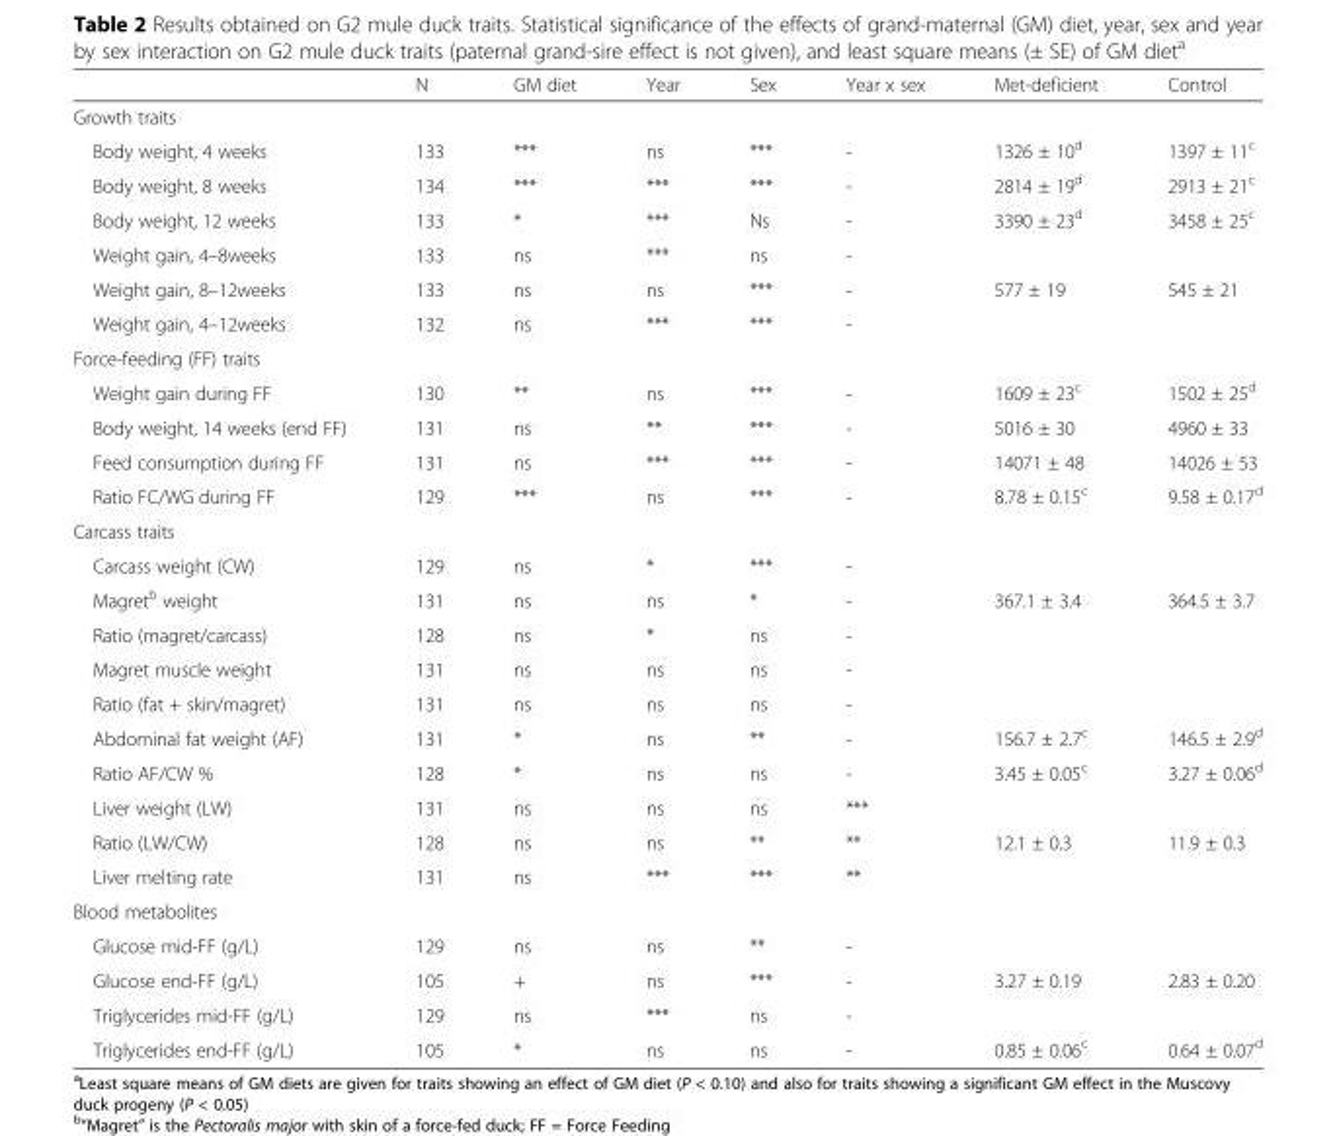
<table><thead><tr><td></td><td>N</td><td>GM diet</td><td>Year</td><td>Sex</td><td>Year x sex</td><td>Met-deficient</td><td>Control</td></tr></thead><tbody><tr><td colspan="8">Growth traits</td></tr><tr><td>Body weight, 4 weeks</td><td>133</td><td>***</td><td>ns</td><td>***</td><td>-</td><td>1326 ± 10<sup>d</sup></td><td>1397 ± 11<sup>c</sup></td></tr><tr><td>Body weight, 8 weeks</td><td>134</td><td>***</td><td>***</td><td>***</td><td>-</td><td>2814 ± 19<sup>d</sup></td><td>2913 ± 21<sup>c</sup></td></tr><tr><td>Body weight, 12 weeks</td><td>133</td><td>*</td><td>***</td><td>Ns</td><td>-</td><td>3390 ± 23<sup>d</sup></td><td>3458 ± 25<sup>c</sup></td></tr><tr><td>Weight gain, 4–8weeks</td><td>133</td><td>ns</td><td>***</td><td>ns</td><td>-</td><td></td><td></td></tr><tr><td>Weight gain, 8–12weeks</td><td>133</td><td>ns</td><td>ns</td><td>***</td><td>-</td><td>577 ± 19</td><td>545 ± 21</td></tr><tr><td>Weight gain, 4–12weeks</td><td>132</td><td>ns</td><td>***</td><td>***</td><td>-</td><td></td><td></td></tr><tr><td colspan="8">Force-feeding (FF) traits</td></tr><tr><td>Weight gain during FF</td><td>130</td><td>**</td><td>ns</td><td>***</td><td>-</td><td>1609 ± 23<sup>c</sup></td><td>1502 ± 25<sup>d</sup></td></tr><tr><td>Body weight, 14 weeks (end FF)</td><td>131</td><td>ns</td><td>**</td><td>***</td><td>-</td><td>5016 ± 30</td><td>4960 ± 33</td></tr><tr><td>Feed consumption during FF</td><td>131</td><td>ns</td><td>***</td><td>***</td><td>-</td><td>14071 ± 48</td><td>14026 ± 53</td></tr><tr><td>Ratio FC/WG during FF</td><td>129</td><td>***</td><td>ns</td><td>***</td><td>-</td><td>8.78 ± 0.15<sup>c</sup></td><td>9.58 ± 0.17<sup>d</sup></td></tr><tr><td colspan="8">Carcass traits</td></tr><tr><td>Carcass weight (CW)</td><td>129</td><td>ns</td><td>*</td><td>***</td><td>-</td><td></td><td></td></tr><tr><td>Magret<sup>b</sup> weight</td><td>131</td><td>ns</td><td>ns</td><td>*</td><td>-</td><td>367.1 ± 3.4</td><td>364.5 ± 3.7</td></tr><tr><td>Ratio (magret/carcass)</td><td>128</td><td>ns</td><td>*</td><td>ns</td><td>-</td><td></td><td></td></tr><tr><td>Magret muscle weight</td><td>131</td><td>ns</td><td>ns</td><td>ns</td><td>-</td><td></td><td></td></tr><tr><td>Ratio (fat + skin/magret)</td><td>131</td><td>ns</td><td>ns</td><td>ns</td><td>-</td><td></td><td></td></tr><tr><td>Abdominal fat weight (AF)</td><td>131</td><td>*</td><td>ns</td><td>**</td><td>-</td><td>156.7 ± 2.7<sup>c</sup></td><td>146.5 ± 2.9<sup>d</sup></td></tr><tr><td>Ratio AF/CW %</td><td>128</td><td>*</td><td>ns</td><td>ns</td><td>-</td><td>3.45 ± 0.05<sup>c</sup></td><td>3.27 ± 0.06<sup>d</sup></td></tr><tr><td>Liver weight (LW)</td><td>131</td><td>ns</td><td>ns</td><td>ns</td><td>***</td><td></td><td></td></tr><tr><td>Ratio (LW/CW)</td><td>128</td><td>ns</td><td>ns</td><td>**</td><td>**</td><td>12.1 ± 0.3</td><td>11.9 ± 0.3</td></tr><tr><td>Liver melting rate</td><td>131</td><td>ns</td><td>***</td><td>***</td><td>**</td><td></td><td></td></tr><tr><td colspan="8">Blood metabolites</td></tr><tr><td>Glucose mid-FF (g/L)</td><td>129</td><td>ns</td><td>ns</td><td>**</td><td>-</td><td></td><td></td></tr><tr><td>Glucose end-FF (g/L)</td><td>105</td><td>+</td><td>ns</td><td>***</td><td>-</td><td>3.27 ± 0.19</td><td>2.83 ± 0.20</td></tr><tr><td>Triglycerides mid-FF (g/L)</td><td>129</td><td>ns</td><td>***</td><td>ns</td><td>-</td><td></td><td></td></tr><tr><td>Triglycerides end-FF (g/L)</td><td>105</td><td>*</td><td>ns</td><td>ns</td><td>-</td><td>0.85 ± 0.06<sup>c</sup></td><td>0.64 ± 0.07<sup>d</sup></td></tr></tbody></table>